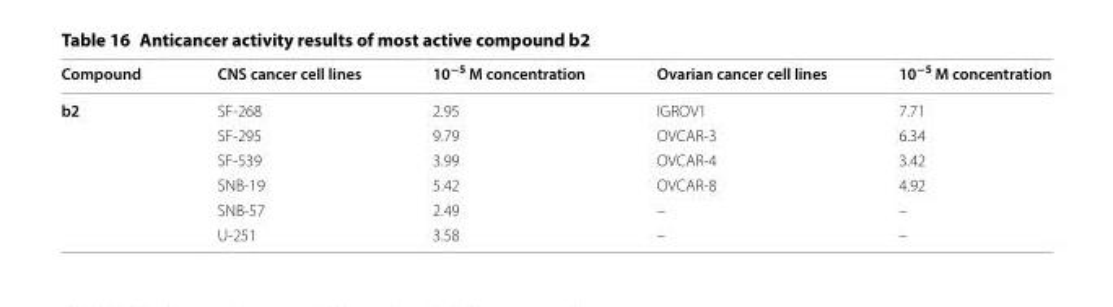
<table><thead><tr><td>Compound</td><td>CNS cancer cell lines</td><td>10<sup>−5</sup> M concentration</td><td>Ovarian cancer cell lines</td><td>10<sup>−5</sup> M concentration</td></tr></thead><tbody><tr><td rowspan="6">b2</td><td>SF-268</td><td>2.95</td><td>IGROV1</td><td>7.71</td></tr><tr><td>SF-295</td><td>9.79</td><td>OVCAR-3</td><td>6.34</td></tr><tr><td>SF-539</td><td>3.99</td><td>OVCAR-4</td><td>3.42</td></tr><tr><td>SNB-19</td><td>5.42</td><td>OVCAR-8</td><td>4.92</td></tr><tr><td>SNB-57</td><td>2.49</td><td>–</td><td>–</td></tr><tr><td>U-251</td><td>3.58</td><td>–</td><td>–</td></tr></tbody></table>